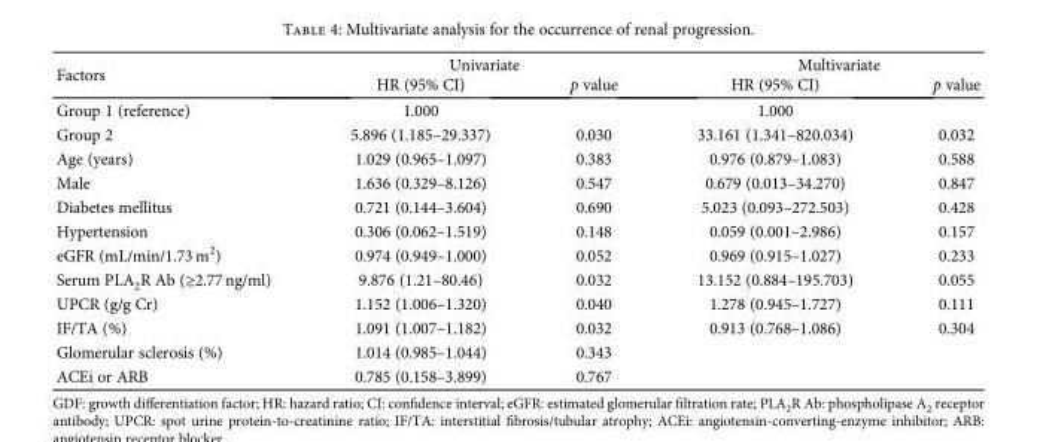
<table><thead><tr><td rowspan="2">Factors</td><td colspan="2">Univariate</td><td colspan="2">Multivariate</td></tr><tr><td>HR (95% CI)</td><td>p value</td><td>HR (95% CI)</td><td>p value</td></tr></thead><tbody><tr><td>Group 1 (reference)</td><td>1.000</td><td></td><td>1.000</td><td></td></tr><tr><td>Group 2</td><td>5.896 (1.185–29.337)</td><td>0.030</td><td>33.161 (1.341–820.034)</td><td>0.032</td></tr><tr><td>Age (years)</td><td>1.029 (0.965–1.097)</td><td>0.383</td><td>0.976 (0.879–1.083)</td><td>0.588</td></tr><tr><td>Male</td><td>1.636 (0.329–8.126)</td><td>0.547</td><td>0.679 (0.013–34.270)</td><td>0.847</td></tr><tr><td>Diabetes mellitus</td><td>0.721 (0.144–3.604)</td><td>0.690</td><td>5.023 (0.093–272.503)</td><td>0.428</td></tr><tr><td>Hypertension</td><td>0.306 (0.062–1.519)</td><td>0.148</td><td>0.059 (0.001–2.986)</td><td>0.157</td></tr><tr><td>eGFR (mL/min/1.73 m<sup>2</sup>)</td><td>0.974 (0.949–1.000)</td><td>0.052</td><td>0.969 (0.915–1.027)</td><td>0.233</td></tr><tr><td>Serum PLA<sub>2</sub>R Ab (≥2.77 ng/ml)</td><td>9.876 (1.21–80.46)</td><td>0.032</td><td>13.152 (0.884–195.703)</td><td>0.055</td></tr><tr><td>UPCR (g/g Cr)</td><td>1.152 (1.006–1.320)</td><td>0.040</td><td>1.278 (0.945–1.727)</td><td>0.111</td></tr><tr><td>IF/TA (%)</td><td>1.091 (1.007–1.182)</td><td>0.032</td><td>0.913 (0.768–1.086)</td><td>0.304</td></tr><tr><td>Glomerular sclerosis (%)</td><td>1.014 (0.985–1.044)</td><td>0.343</td><td></td><td></td></tr><tr><td>ACEi or ARB</td><td>0.785 (0.158–3.899)</td><td>0.767</td><td></td><td></td></tr></tbody></table>